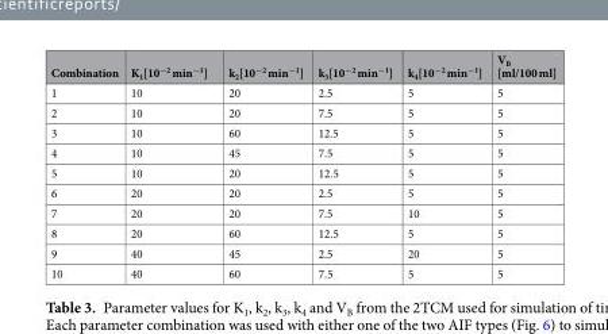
<table><thead><tr><td>Combination</td><td>K<sub>1</sub>[10<sup>−2</sup> min<sup>−1</sup>]</td><td>k<sub>2</sub>[10<sup>−2</sup> min<sup>−1</sup>]</td><td>k<sub>3</sub>[10<sup>−2</sup> min<sup>−1</sup>]</td><td>k<sub>4</sub>[10<sup>−2</sup> min<sup>−1</sup>]</td><td>V<sub>B</sub> [ml/100 ml]</td></tr></thead><tbody><tr><td>1</td><td>10</td><td>20</td><td>2.5</td><td>5</td><td>5</td></tr><tr><td>2</td><td>10</td><td>20</td><td>7.5</td><td>5</td><td>5</td></tr><tr><td>3</td><td>10</td><td>60</td><td>12.5</td><td>5</td><td>5</td></tr><tr><td>4</td><td>10</td><td>45</td><td>7.5</td><td>5</td><td>5</td></tr><tr><td>5</td><td>10</td><td>20</td><td>12.5</td><td>5</td><td>5</td></tr><tr><td>6</td><td>20</td><td>20</td><td>2.5</td><td>5</td><td>5</td></tr><tr><td>7</td><td>20</td><td>20</td><td>7.5</td><td>10</td><td>5</td></tr><tr><td>8</td><td>20</td><td>60</td><td>12.5</td><td>5</td><td>5</td></tr><tr><td>9</td><td>40</td><td>45</td><td>2.5</td><td>20</td><td>5</td></tr><tr><td>10</td><td>40</td><td>60</td><td>7.5</td><td>5</td><td>5</td></tr></tbody></table>